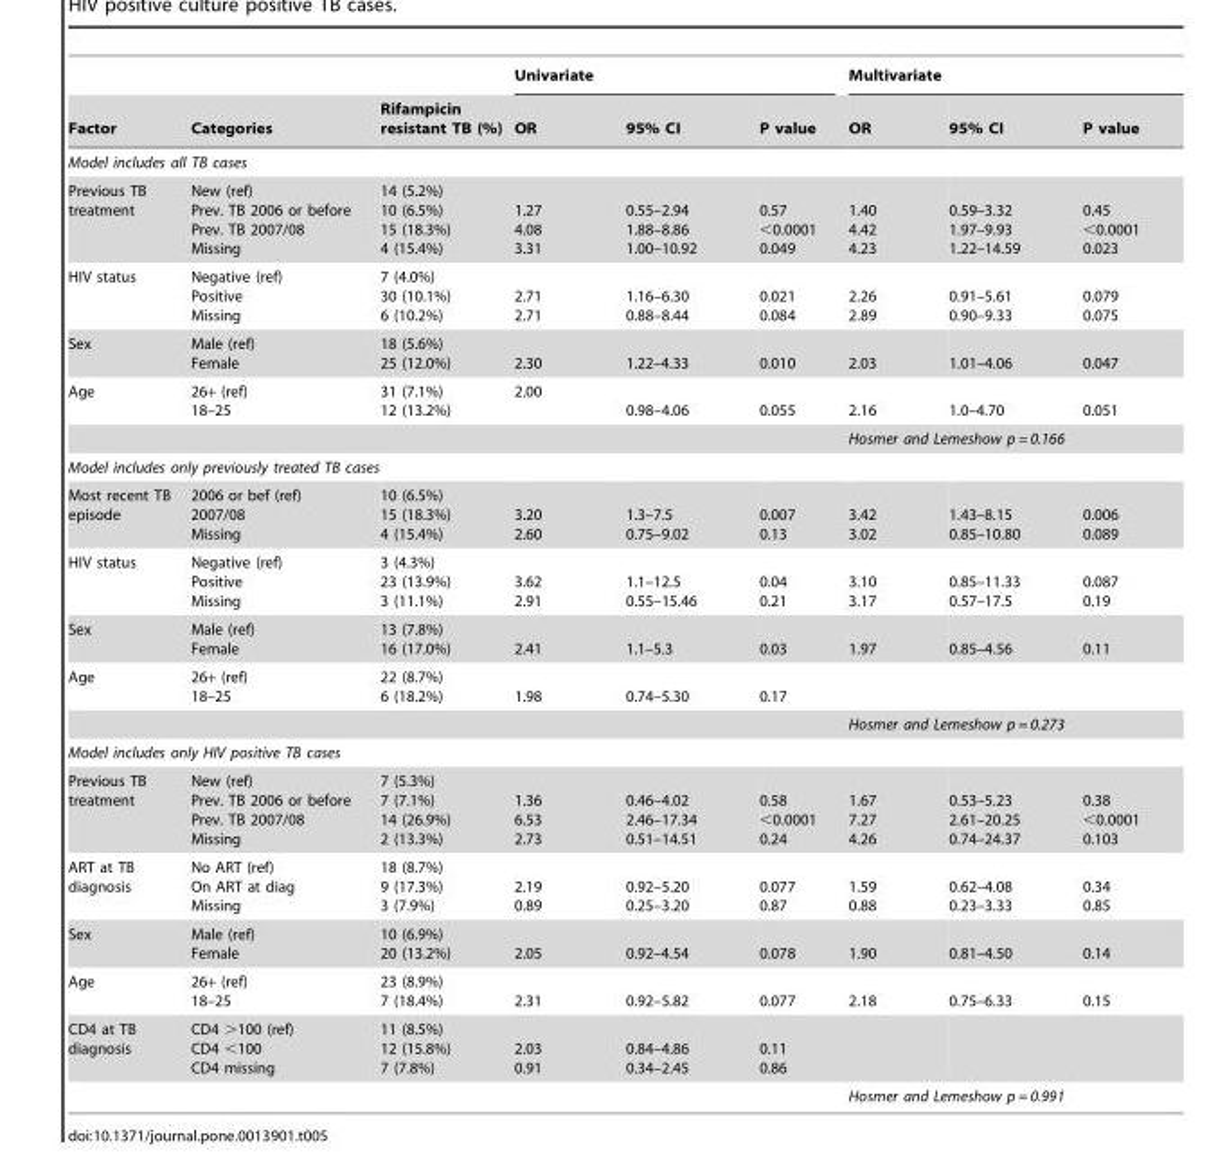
<table><thead><tr><td rowspan="2">Factor</td><td rowspan="2">Categories</td><td rowspan="2">Rifampicin resistant TB (%)</td><td colspan="3">Univariate</td><td colspan="3">Multivariate</td></tr><tr><td>OR</td><td>95% CI</td><td>P value</td><td>OR</td><td>95% CI</td><td>P value</td></tr></thead><tbody><tr><td colspan="9">Model includes all TB cases</td></tr><tr><td>Previous TB treatment</td><td>New (ref) Prev. TB 2006 or before Prev. TB 2007/08 Missing</td><td>14 (5.2%) 10 (6.5%) 15 (18.3%) 4 (15.4%)</td><td>1.27 4.08 3.31</td><td>0.55–2.94 1.88–8.86 1.00–10.92</td><td>0.57 &lt;0.0001 0.049</td><td>1.40 4.42 4.23</td><td>0.59–3.32 1.97–9.93 1.22–14.59</td><td>0.45 &lt;0.0001 0.023</td></tr><tr><td>HIV status</td><td>Negative (ref) Positive Missing</td><td>7 (4.0%) 30 (10.1%) 6 (10.2%)</td><td>2.71 2.71</td><td>1.16–6.30 0.88–8.44</td><td>0.021 0.084</td><td>2.26 2.89</td><td>0.91–5.61 0.90–9.33</td><td>0.079 0.075</td></tr><tr><td>Sex</td><td>Male (ref) Female</td><td>18 (5.6%) 25 (12.0%)</td><td>2.30</td><td>1.22–4.33</td><td>0.010</td><td>2.03</td><td>1.01–4.06</td><td>0.047</td></tr><tr><td>Age</td><td>26+ (ref) 18–25</td><td>31 (7.1%) 12 (13.2%)</td><td>2.00</td><td>0.98–4.06</td><td>0.055</td><td>2.16</td><td>1.0–4.70</td><td>0.051</td></tr><tr><td colspan="6"></td><td colspan="3">Hosmer and Lemeshow p = 0.166</td></tr><tr><td colspan="9">Model includes only previously treated TB cases</td></tr><tr><td>Most recent TB episode</td><td>2006 or bef (ref) 2007/08 Missing</td><td>10 (6.5%) 15 (18.3%) 4 (15.4%)</td><td>3.20 2.60</td><td>1.3–7.5 0.75–9.02</td><td>0.007 0.13</td><td>3.42 3.02</td><td>1.43–8.15 0.85–10.80</td><td>0.006 0.089</td></tr><tr><td>HIV status</td><td>Negative (ref) Positive Missing</td><td>3 (4.3%) 23 (13.9%) 3 (11.1%)</td><td>3.62 2.91</td><td>1.1–12.5 0.55–15.46</td><td>0.04 0.21</td><td>3.10 3.17</td><td>0.85–11.33 0.57–17.5</td><td>0.087 0.19</td></tr><tr><td>Sex</td><td>Male (ref) Female</td><td>13 (7.8%) 16 (17.0%)</td><td>2.41</td><td>1.1–5.3</td><td>0.03</td><td>1.97</td><td>0.85–4.56</td><td>0.11</td></tr><tr><td>Age</td><td>26+ (ref) 18–25</td><td>22 (8.7%) 6 (18.2%)</td><td>1.98</td><td>0.74–5.30</td><td>0.17</td><td></td><td></td><td></td></tr><tr><td colspan="6"></td><td colspan="3">Hosmer and Lemeshow p = 0.273</td></tr><tr><td colspan="9">Model includes only HIV positive TB cases</td></tr><tr><td>Previous TB treatment</td><td>New (ref) Prev. TB 2006 or before Prev. TB 2007/08 Missing</td><td>7 (5.3%) 7 (7.1%) 14 (26.9%) 2 (13.3%)</td><td>1.36 6.53 2.73</td><td>0.46–4.02 2.46–17.34 0.51–14.51</td><td>0.58 &lt;0.0001 0.24</td><td>1.67 7.27 4.26</td><td>0.53–5.23 2.61–20.25 0.74–24.37</td><td>0.38 &lt;0.0001 0.103</td></tr><tr><td>ART at TB diagnosis</td><td>No ART (ref) On ART at diag Missing</td><td>18 (8.7%) 9 (17.3%) 3 (7.9%)</td><td>2.19 0.89</td><td>0.92–5.20 0.25–3.20</td><td>0.077 0.87</td><td>1.59 0.88</td><td>0.62–4.08 0.23–3.33</td><td>0.34 0.85</td></tr><tr><td>Sex</td><td>Male (ref) Female</td><td>10 (6.9%) 20 (13.2%)</td><td>2.05</td><td>0.92–4.54</td><td>0.078</td><td>1.90</td><td>0.81–4.50</td><td>0.14</td></tr><tr><td>Age</td><td>26+ (ref) 18–25</td><td>23 (8.9%) 7 (18.4%)</td><td>2.31</td><td>0.92–5.82</td><td>0.077</td><td>2.18</td><td>0.75–6.33</td><td>0.15</td></tr><tr><td>CD4 at TB diagnosis</td><td>CD4 &gt;100 (ref) CD4 &lt;100 CD4 missing</td><td>11 (8.5%) 12 (15.8%) 7 (7.8%)</td><td>2.03 0.91</td><td>0.84–4.86 0.34–2.45</td><td>0.11 0.86</td><td></td><td></td><td></td></tr><tr><td colspan="6"></td><td colspan="3">Hosmer and Lemeshow p = 0.991</td></tr></tbody></table>